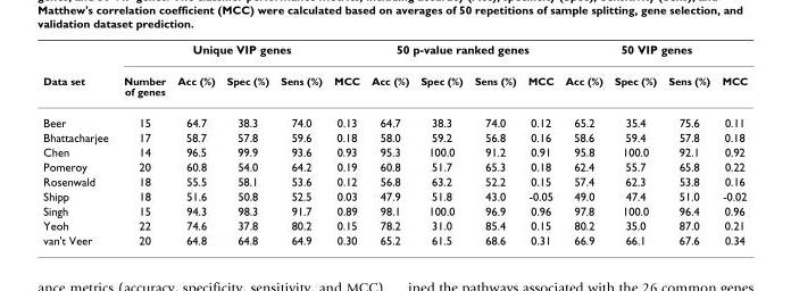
<table><thead><tr><td rowspan="2">Data set</td><td colspan="5">Unique VIP genes</td><td colspan="4">50 p-value ranked genes</td><td colspan="4">50 VIP genes</td></tr><tr><td>Number of genes</td><td>Acc (%)</td><td>Spec (%)</td><td>Sens (%)</td><td>MCC</td><td>Acc (%)</td><td>Spec (%)</td><td>Sens (%)</td><td>MCC</td><td>Acc (%)</td><td>Spec (%)</td><td>Sens (%)</td><td>MCC</td></tr></thead><tbody><tr><td>Beer</td><td>15</td><td>64.7</td><td>38.3</td><td>74.0</td><td>0.13</td><td>64.7</td><td>38.3</td><td>74.0</td><td>0.12</td><td>65.2</td><td>35.4</td><td>75.6</td><td>0.11</td></tr><tr><td>Bhattacharjee</td><td>17</td><td>58.7</td><td>57.8</td><td>59.6</td><td>0.18</td><td>58.0</td><td>59.2</td><td>56.8</td><td>0.16</td><td>58.6</td><td>59.4</td><td>57.8</td><td>0.18</td></tr><tr><td>Chen</td><td>14</td><td>96.5</td><td>99.9</td><td>93.6</td><td>0.93</td><td>95.3</td><td>100.0</td><td>91.2</td><td>0.91</td><td>95.8</td><td>100.0</td><td>92.1</td><td>0.92</td></tr><tr><td>Pomeroy</td><td>20</td><td>60.8</td><td>54.0</td><td>64.2</td><td>0.19</td><td>60.8</td><td>51.7</td><td>65.3</td><td>0.18</td><td>62.4</td><td>55.7</td><td>65.8</td><td>0.22</td></tr><tr><td>Rosenwald</td><td>18</td><td>55.5</td><td>58.1</td><td>53.6</td><td>0.12</td><td>56.8</td><td>63.2</td><td>52.2</td><td>0.15</td><td>57.4</td><td>62.3</td><td>53.8</td><td>0.16</td></tr><tr><td>Shipp</td><td>18</td><td>51.6</td><td>50.8</td><td>52.5</td><td>0.03</td><td>47.9</td><td>51.8</td><td>43.0</td><td>-0.05</td><td>49.0</td><td>47.4</td><td>51.0</td><td>-0.02</td></tr><tr><td>Singh</td><td>15</td><td>94.3</td><td>98.3</td><td>91.7</td><td>0.89</td><td>98.1</td><td>100.0</td><td>96.9</td><td>0.96</td><td>97.8</td><td>100.0</td><td>96.4</td><td>0.96</td></tr><tr><td>Yeoh</td><td>22</td><td>74.6</td><td>37.8</td><td>80.2</td><td>0.15</td><td>78.2</td><td>31.0</td><td>85.4</td><td>0.15</td><td>80.2</td><td>35.0</td><td>87.0</td><td>0.21</td></tr><tr><td>van&#x27;t Veer</td><td>20</td><td>64.8</td><td>64.8</td><td>64.9</td><td>0.30</td><td>65.2</td><td>61.5</td><td>68.6</td><td>0.31</td><td>66.9</td><td>66.1</td><td>67.6</td><td>0.34</td></tr></tbody></table>